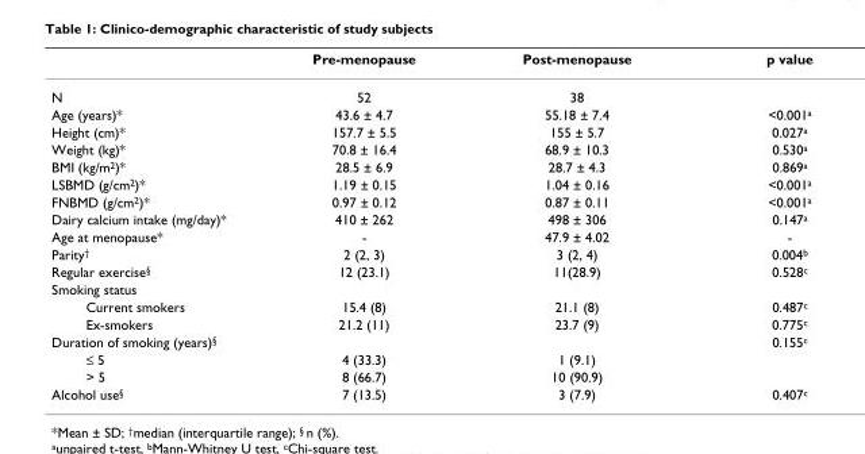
<table><thead><tr><td></td><td>Pre-menopause</td><td>Post-menopause</td><td>p value</td></tr></thead><tbody><tr><td>N</td><td>52</td><td>38</td><td></td></tr><tr><td>Age (years)*</td><td>43.6 ± 4.7</td><td>55.18 ± 7.4</td><td>&lt;0.001<sup>a</sup></td></tr><tr><td>Height (cm)*</td><td>157.7 ± 5.5</td><td>155 ± 5.7</td><td>0.027<sup>a</sup></td></tr><tr><td>Weight (kg)*</td><td>70.8 ± 16.4</td><td>68.9 ± 10.3</td><td>0.530<sup>a</sup></td></tr><tr><td>BMI (kg/m<sup>2</sup>)*</td><td>28.5 ± 6.9</td><td>28.7 ± 4.3</td><td>0.869<sup>a</sup></td></tr><tr><td>LSBMD (g/cm<sup>2</sup>)*</td><td>1.19 ± 0.15</td><td>1.04 ± 0.16</td><td>&lt;0.001<sup>a</sup></td></tr><tr><td>FNBMD (g/cm<sup>2</sup>)*</td><td>0.97 ± 0.12</td><td>0.87 ± 0.11</td><td>&lt;0.001<sup>a</sup></td></tr><tr><td>Dairy calcium intake (mg/day)*</td><td>410 ± 262</td><td>498 ± 306</td><td>0.147<sup>a</sup></td></tr><tr><td>Age at menopause*</td><td>-</td><td>47.9 ± 4.02</td><td>-</td></tr><tr><td>Parity<sup>†</sup></td><td>2 (2, 3)</td><td>3 (2, 4)</td><td>0.004<sup>b</sup></td></tr><tr><td>Regular exercise<sup>§</sup></td><td>12 (23.1)</td><td>11(28.9)</td><td>0.528<sup>c</sup></td></tr><tr><td colspan="4">Smoking status</td></tr><tr><td>Current smokers</td><td>15.4 (8)</td><td>21.1 (8)</td><td>0.487<sup>c</sup></td></tr><tr><td>Ex-smokers</td><td>21.2 (11)</td><td>23.7 (9)</td><td>0.775<sup>c</sup></td></tr><tr><td>Duration of smoking (years)<sup>§</sup></td><td></td><td></td><td>0.155<sup>c</sup></td></tr><tr><td>≤ 5</td><td>4 (33.3)</td><td>1 (9.1)</td><td></td></tr><tr><td>&gt; 5</td><td>8 (66.7)</td><td>10 (90.9)</td><td></td></tr><tr><td>Alcohol use<sup>§</sup></td><td>7 (13.5)</td><td>3 (7.9)</td><td>0.407<sup>c</sup></td></tr></tbody></table>